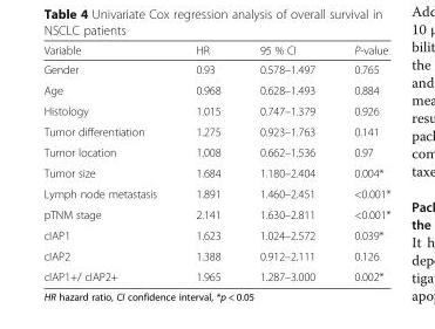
<table><thead><tr><td>Variable</td><td>HR</td><td>95 % CI</td><td>P-value</td></tr></thead><tbody><tr><td>Gender</td><td>0.93</td><td>0.578–1.497</td><td>0.765</td></tr><tr><td>Age</td><td>0.968</td><td>0.628–1.493</td><td>0.884</td></tr><tr><td>Histology</td><td>1.015</td><td>0.747–1.379</td><td>0.926</td></tr><tr><td>Tumor differentiation</td><td>1.275</td><td>0.923–1.763</td><td>0.141</td></tr><tr><td>Tumor location</td><td>1.008</td><td>0.662–1.536</td><td>0.97</td></tr><tr><td>Tumor size</td><td>1.684</td><td>1.180–2.404</td><td>0.004*</td></tr><tr><td>Lymph node metastasis</td><td>1.891</td><td>1.460–2.451</td><td>&lt;0.001*</td></tr><tr><td>pTNM stage</td><td>2.141</td><td>1.630–2.811</td><td>&lt;0.001*</td></tr><tr><td>cIAP1</td><td>1.623</td><td>1.024–2.572</td><td>0.039*</td></tr><tr><td>cIAP2</td><td>1.388</td><td>0.912–2.111</td><td>0.126</td></tr><tr><td>cIAP1+/ cIAP2+</td><td>1.965</td><td>1.287–3.000</td><td>0.002*</td></tr></tbody></table>